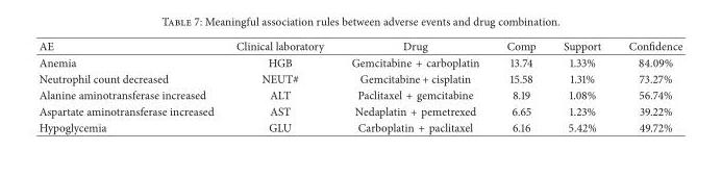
<table><thead><tr><td>AE</td><td>Clinical laboratory</td><td>Drug</td><td>Comp</td><td>Support</td><td>Confidence</td></tr></thead><tbody><tr><td>Anemia</td><td>HGB</td><td>Gemcitabine + carboplatin</td><td>13.74</td><td>1.33%</td><td>84.09%</td></tr><tr><td>Neutrophil count decreased</td><td>NEUT#</td><td>Gemcitabine + cisplatin</td><td>15.58</td><td>1.31%</td><td>73.27%</td></tr><tr><td>Alanine aminotransferase increased</td><td>ALT</td><td>Paclitaxel + gemcitabine</td><td>8.19</td><td>1.08%</td><td>56.74%</td></tr><tr><td>Aspartate aminotransferase increased</td><td>AST</td><td>Nedaplatin + pemetrexed</td><td>6.65</td><td>1.23%</td><td>39.22%</td></tr><tr><td>Hypoglycemia</td><td>GLU</td><td>Carboplatin + paclitaxel</td><td>6.16</td><td>5.42%</td><td>49.72%</td></tr></tbody></table>